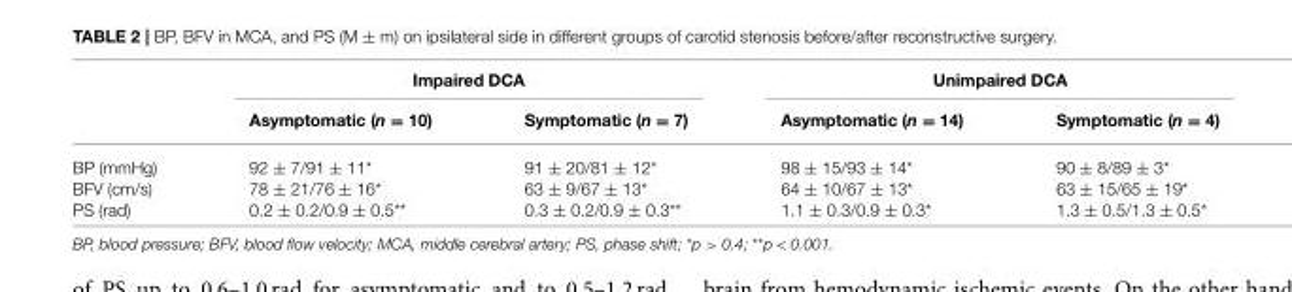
<table><thead><tr><td rowspan="2"></td><td colspan="2">Impaired DCA</td><td colspan="2">Unimpaired DCA</td></tr><tr><td>Asymptomatic (n = 10)</td><td>Symptomatic (n = 7)</td><td>Asymptomatic (n = 14)</td><td>Symptomatic (n = 4)</td></tr></thead><tbody><tr><td>BP (mmHg)</td><td>92 ± 7/91 ± 11*</td><td>91 ± 20/81 ± 12*</td><td>98 ± 15/93 ± 14*</td><td>90 ± 8/89 ± 3*</td></tr><tr><td>BFV (cm/s)</td><td>78 ± 21/76 ± 16*</td><td>63 ± 9/67 ± 13*</td><td>64 ± 10/67 ± 13*</td><td>63 ± 15/65 ± 19*</td></tr><tr><td>PS (rad)</td><td>0.2 ± 0.2/0.9 ± 0.5**</td><td>0.3 ± 0.2/0.9 ± 0.3**</td><td>1.1 ± 0.3/0.9 ± 0.3*</td><td>1.3 ± 0.5/1.3 ± 0.5*</td></tr></tbody></table>